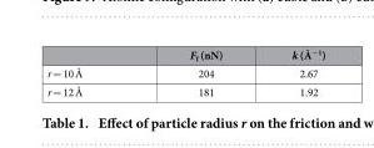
<table><thead><tr><td></td><td>F<sub>f</sub> (nN)</td><td>k (Å<sup>−1</sup>)</td></tr></thead><tbody><tr><td>r = 10 Å</td><td>204</td><td>2.67</td></tr><tr><td>r = 12 Å</td><td>181</td><td>1.92</td></tr></tbody></table>